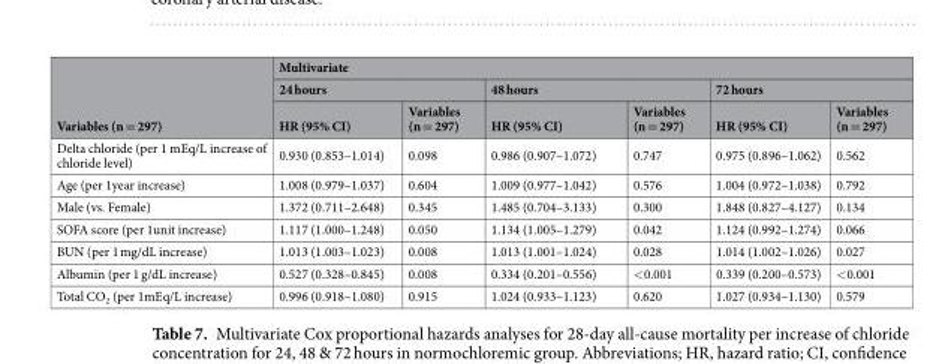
<table><thead><tr><td rowspan="3">Variables (n = 297)</td><td colspan="6">Multivariate</td></tr><tr><td colspan="2">24 hours</td><td colspan="2">48 hours</td><td colspan="2">72 hours</td></tr><tr><td>HR (95% CI)</td><td>Variables (n = 297)</td><td>HR (95% CI)</td><td>Variables (n = 297)</td><td>HR (95% CI)</td><td>Variables (n = 297)</td></tr></thead><tbody><tr><td>Delta chloride (per 1 mEq/L increase of chloride level)</td><td>0.930 (0.853–1.014)</td><td>0.098</td><td>0.986 (0.907–1.072)</td><td>0.747</td><td>0.975 (0.896–1.062)</td><td>0.562</td></tr><tr><td>Age (per 1year increase)</td><td>1.008 (0.979–1.037)</td><td>0.604</td><td>1.009 (0.977–1.042)</td><td>0.576</td><td>1.004 (0.972–1.038)</td><td>0.792</td></tr><tr><td>Male (vs. Female)</td><td>1.372 (0.711–2.648)</td><td>0.345</td><td>1.485 (0.704–3.133)</td><td>0.300</td><td>1.848 (0.827–4.127)</td><td>0.134</td></tr><tr><td>SOFA score (per 1unit increase)</td><td>1.117 (1.000–1.248)</td><td>0.050</td><td>1.134 (1.005–1.279)</td><td>0.042</td><td>1.124 (0.992–1.274)</td><td>0.066</td></tr><tr><td>BUN (per 1 mg/dL increase)</td><td>1.013 (1.003–1.023)</td><td>0.008</td><td>1.013 (1.001–1.024)</td><td>0.028</td><td>1.014 (1.002–1.026)</td><td>0.027</td></tr><tr><td>Albumin (per 1 g/dL increase)</td><td>0.527 (0.328–0.845)</td><td>0.008</td><td>0.334 (0.201–0.556)</td><td>&lt;0.001</td><td>0.339 (0.200–0.573)</td><td>&lt;0.001</td></tr><tr><td>Total CO<sub>2</sub> (per 1mEq/L increase)</td><td>0.996 (0.918–1.080)</td><td>0.915</td><td>1.024 (0.933–1.123)</td><td>0.620</td><td>1.027 (0.934–1.130)</td><td>0.579</td></tr></tbody></table>